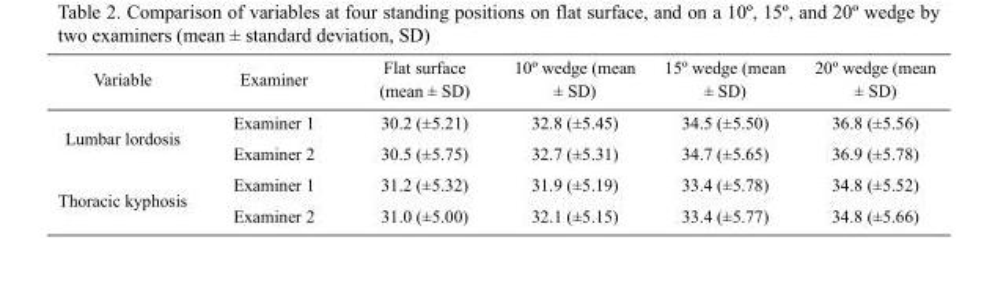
<table><thead><tr><td>Variable</td><td>Examiner</td><td>Flat surface (mean ± SD)</td><td>10º wedge (mean ± SD)</td><td>15º wedge (mean ± SD)</td><td>20º wedge (mean ± SD)</td></tr></thead><tbody><tr><td rowspan="2">Lumbar lordosis</td><td>Examiner 1</td><td>30.2 (±5.21)</td><td>32.8 (±5.45)</td><td>34.5 (±5.50)</td><td>36.8 (±5.56)</td></tr><tr><td>Examiner 2</td><td>30.5 (±5.75)</td><td>32.7 (±5.31)</td><td>34.7 (±5.65)</td><td>36.9 (±5.78)</td></tr><tr><td rowspan="2">Thoracic kyphosis</td><td>Examiner 1</td><td>31.2 (±5.32)</td><td>31.9 (±5.19)</td><td>33.4 (±5.78)</td><td>34.8 (±5.52)</td></tr><tr><td>Examiner 2</td><td>31.0 (±5.00)</td><td>32.1 (±5.15)</td><td>33.4 (±5.77)</td><td>34.8 (±5.66)</td></tr></tbody></table>